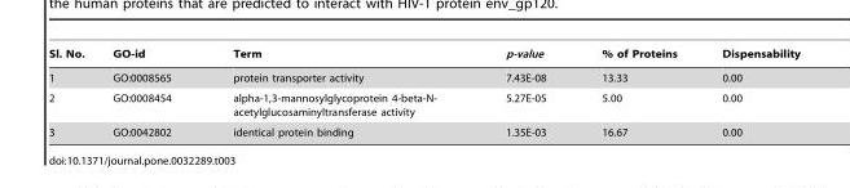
<table><thead><tr><td>Sl. No.</td><td>GO-id</td><td>Term</td><td>p-value</td><td>% of Proteins</td><td>Dispensability</td></tr></thead><tbody><tr><td>1</td><td>GO:0008565</td><td>protein transporter activity</td><td>7.43E-08</td><td>13.33</td><td>0.00</td></tr><tr><td>2</td><td>GO:0008454</td><td>alpha-1,3-mannosylglycoprotein 4-beta-N- acetylglucosaminyltransferase activity</td><td>5.27E-05</td><td>5.00</td><td>0.00</td></tr><tr><td>3</td><td>GO:0042802</td><td>identical protein binding</td><td>1.35E-03</td><td>16.67</td><td>0.00</td></tr></tbody></table>